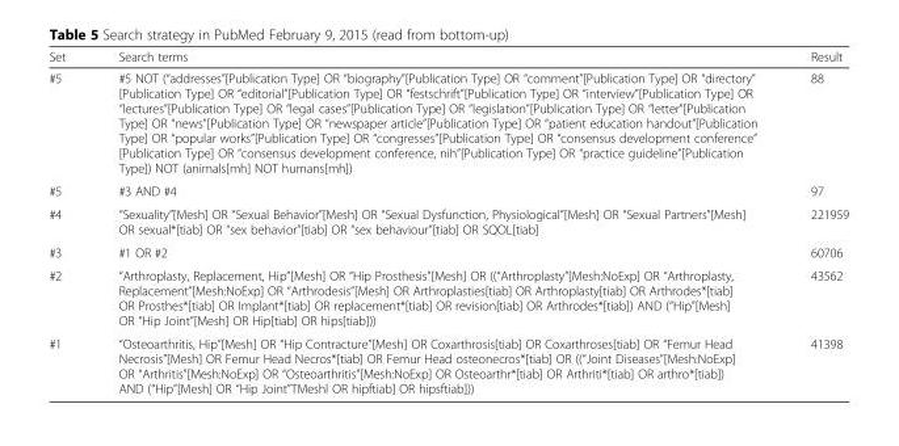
<table><thead><tr><td>Set</td><td>Search terms</td><td>Result</td></tr></thead><tbody><tr><td>#5</td><td>#5 NOT (“addresses”[Publication Type] OR “biography”[Publication Type] OR “comment”[Publication Type] OR “directory” [Publication Type] OR “editorial”[Publication Type] OR “festschrift”[Publication Type] OR “interview”[Publication Type] OR “lectures”[Publication Type] OR “legal cases”[Publication Type] OR “legislation”[Publication Type] OR “letter”[Publication Type] OR “news”[Publication Type] OR “newspaper article”[Publication Type] OR “patient education handout”[Publication Type] OR “popular works”[Publication Type] OR “congresses”[Publication Type] OR “consensus development conference” [Publication Type] OR “consensus development conference, nih”[Publication Type] OR “practice guideline”[Publication Type]) NOT (animals[mh] NOT humans[mh])</td><td>88</td></tr><tr><td>#5</td><td>#3 AND #4</td><td>97</td></tr><tr><td>#4</td><td>“Sexuality”[Mesh] OR “Sexual Behavior”[Mesh] OR “Sexual Dysfunction, Physiological”[Mesh] OR “Sexual Partners”[Mesh] OR sexual*[tiab] OR “sex behavior”[tiab] OR “sex behaviour”[tiab] OR SQOL[tiab]</td><td>221959</td></tr><tr><td>#3</td><td>#1 OR #2</td><td>60706</td></tr><tr><td>#2</td><td>“Arthroplasty, Replacement, Hip”[Mesh] OR “Hip Prosthesis”[Mesh] OR ((“Arthroplasty”[Mesh:NoExp] OR “Arthroplasty, Replacement”[Mesh:NoExp] OR “Arthrodesis”[Mesh] OR Arthroplasties[tiab] OR Arthroplasty[tiab] OR Arthrodes*[tiab] OR Prosthes*[tiab] OR Implant*[tiab] OR replacement*[tiab] OR revision[tiab] OR Arthrodes*[tiab]) AND (“Hip”[Mesh] OR “Hip Joint”[Mesh] OR Hip[tiab] OR hips[tiab]))</td><td>43562</td></tr><tr><td>#1</td><td>“Osteoarthritis, Hip”[Mesh] OR “Hip Contracture”[Mesh] OR Coxarthrosis[tiab] OR Coxarthroses[tiab] OR “Femur Head Necrosis”[Mesh] OR Femur Head Necros*[tiab] OR Femur Head osteonecros*[tiab] OR ((“Joint Diseases”[Mesh:NoExp] OR “Arthritis”[Mesh:NoExp] OR “Osteoarthritis”[Mesh:NoExp] OR Osteoarthr*[tiab] OR Arthriti*[tiab] OR arthro*[tiab]) AND (“Hip”[Mesh] OR “Hip Joint”TMeshl OR hipftiab] OR hipsftiab]))</td><td>41398</td></tr></tbody></table>